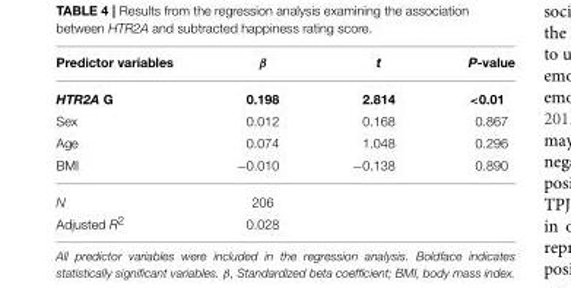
<table><thead><tr><td>Predictor variables</td><td>β</td><td>t</td><td>P-value</td></tr></thead><tbody><tr><td>HTR2A G</td><td>0.198</td><td>2.814</td><td>&lt;0.01</td></tr><tr><td>Sex</td><td>0.012</td><td>0.168</td><td>0.867</td></tr><tr><td>Age</td><td>0.074</td><td>1.048</td><td>0.296</td></tr><tr><td>BMI</td><td>−0.010</td><td>−0.138</td><td>0.890</td></tr><tr><td>N</td><td>206</td><td></td><td></td></tr><tr><td>Adjusted R<sup>2</sup></td><td>0.028</td><td></td><td></td></tr></tbody></table>